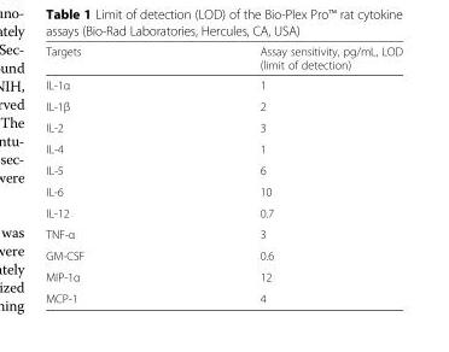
<table><thead><tr><td>Targets</td><td>Assay sensitivity, pg/mL, LOD (limit of detection)</td></tr></thead><tbody><tr><td>IL-1α</td><td>1</td></tr><tr><td>IL-1β</td><td>2</td></tr><tr><td>IL-2</td><td>3</td></tr><tr><td>IL-4</td><td>1</td></tr><tr><td>IL-5</td><td>6</td></tr><tr><td>IL-6</td><td>10</td></tr><tr><td>IL-12</td><td>0.7</td></tr><tr><td>TNF-α</td><td>3</td></tr><tr><td>GM-CSF</td><td>0.6</td></tr><tr><td>MIP-1α</td><td>12</td></tr><tr><td>MCP-1</td><td>4</td></tr></tbody></table>